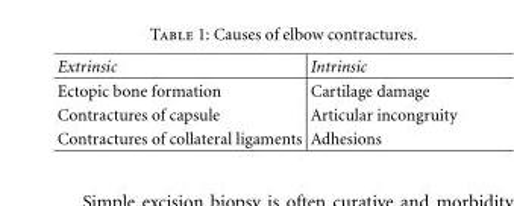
<table><tbody><tr><td>Extrinsic</td><td>Intrinsic</td></tr><tr><td>Ectopic bone formation</td><td>Cartilage damage</td></tr><tr><td>Contractures of capsule</td><td>Articular incongruity</td></tr><tr><td>Contractures of collateral ligaments</td><td>Adhesions</td></tr></tbody></table>